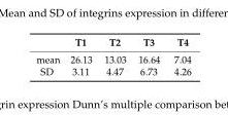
<table><thead><tr><td></td><td>T1</td><td>T2</td><td>T3</td><td>T4</td></tr></thead><tbody><tr><td>mean</td><td>26.13</td><td>13.03</td><td>16.64</td><td>7.04</td></tr><tr><td>SD</td><td>3.11</td><td>4.47</td><td>6.73</td><td>4.26</td></tr></tbody></table>